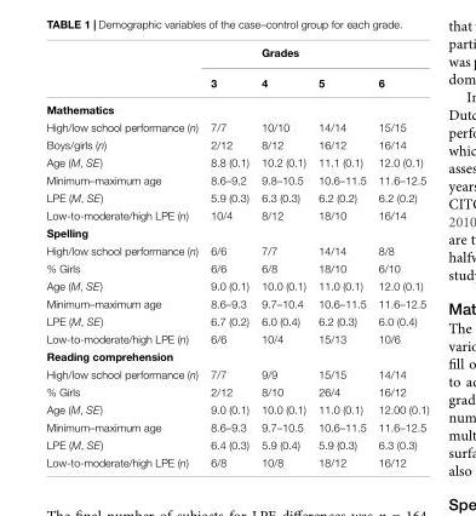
<table><thead><tr><td rowspan="2"></td><td colspan="4">Grades</td></tr><tr><td>3</td><td>4</td><td>5</td><td>6</td></tr></thead><tbody><tr><td colspan="5">Mathematics</td></tr><tr><td>High/low school performance (n)</td><td>7/7</td><td>10/10</td><td>14/14</td><td>15/15</td></tr><tr><td>Boys/girls (n)</td><td>2/12</td><td>8/12</td><td>16/12</td><td>16/14</td></tr><tr><td>Age (M, SE)</td><td>8.8 (0.1)</td><td>10.2 (0.1)</td><td>11.1 (0.1)</td><td>12.0 (0.1)</td></tr><tr><td>Minimum–maximum age</td><td>8.6–9.2</td><td>9.8–10.5</td><td>10.6–11.5</td><td>11.6–12.5</td></tr><tr><td>LPE (M, SE)</td><td>5.9 (0.3)</td><td>6.3 (0.3)</td><td>6.2 (0.2)</td><td>6.2 (0.2)</td></tr><tr><td>Low-to-moderate/high LPE (n)</td><td>10/4</td><td>8/12</td><td>18/10</td><td>16/14</td></tr><tr><td colspan="5">Spelling</td></tr><tr><td>High/low school performance (n)</td><td>6/6</td><td>7/7</td><td>14/14</td><td>8/8</td></tr><tr><td>% Girls</td><td>6/6</td><td>6/8</td><td>18/10</td><td>6/10</td></tr><tr><td>Age (M, SE)</td><td>9.0 (0.1)</td><td>10.0 (0.1)</td><td>11.0 (0.1)</td><td>12.0 (0.1)</td></tr><tr><td>Minimum–maximum age</td><td>8.6–9.3</td><td>9.7–10.4</td><td>10.6–11.5</td><td>11.6–12.5</td></tr><tr><td>LPE (M, SE)</td><td>6.7 (0.2)</td><td>6.0 (0.4)</td><td>6.2 (0.3)</td><td>6.0 (0.4)</td></tr><tr><td>Low-to-moderate/high LPE (n)</td><td>6/6</td><td>10/4</td><td>15/13</td><td>10/6</td></tr><tr><td colspan="5">Reading comprehension</td></tr><tr><td>High/low school performance (n)</td><td>7/7</td><td>9/9</td><td>15/15</td><td>14/14</td></tr><tr><td>% Girls</td><td>2/12</td><td>8/10</td><td>26/4</td><td>16/12</td></tr><tr><td>Age (M, SE)</td><td>9.0 (0.1)</td><td>10.0 (0.1)</td><td>11.0 (0.1)</td><td>12.00 (0.1)</td></tr><tr><td>Minimum–maximum age</td><td>8.6–9.3</td><td>9.7–10.5</td><td>10.6–11.5</td><td>11.6–12.5</td></tr><tr><td>LPE (M, SE)</td><td>6.4 (0.3)</td><td>5.9 (0.4)</td><td>5.9 (0.3)</td><td>6.3 (0.3)</td></tr><tr><td>Low-to-moderate/high LPE (n)</td><td>6/8</td><td>10/8</td><td>18/12</td><td>16/12</td></tr></tbody></table>